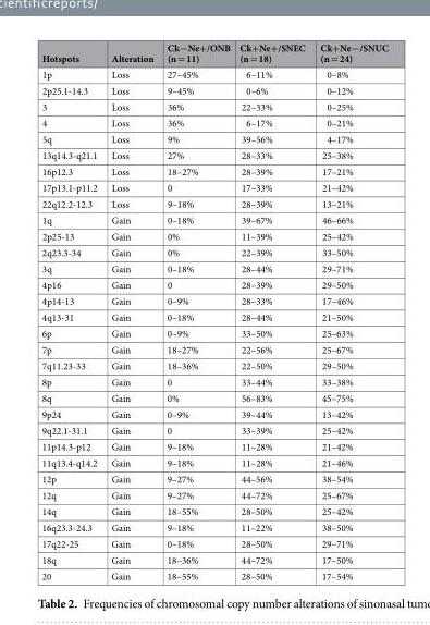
<table><thead><tr><td>Hotspots</td><td>Alteration</td><td>Ck−Ne+/ONB (n = 11)</td><td>Ck+Ne+/SNEC (n = 18)</td><td>Ck+Ne−/SNUC (n = 24)</td></tr></thead><tbody><tr><td>1p</td><td>Loss</td><td>27–45%</td><td>6–11%</td><td>0–8%</td></tr><tr><td>2p25.1-14.3</td><td>Loss</td><td>9–45%</td><td>0–6%</td><td>0–12%</td></tr><tr><td>3</td><td>Loss</td><td>36%</td><td>22–33%</td><td>0–25%</td></tr><tr><td>4</td><td>Loss</td><td>36%</td><td>6–17%</td><td>0–21%</td></tr><tr><td>5q</td><td>Loss</td><td>9%</td><td>39–56%</td><td>4–17%</td></tr><tr><td>13q14.3-q21.1</td><td>Loss</td><td>27%</td><td>28–33%</td><td>25–38%</td></tr><tr><td>16p12.3</td><td>Loss</td><td>18–27%</td><td>28–39%</td><td>17–21%</td></tr><tr><td>17p13.1-p11.2</td><td>Loss</td><td>0</td><td>17–33%</td><td>21–42%</td></tr><tr><td>22q12.2-12.3</td><td>Loss</td><td>9–18%</td><td>28–39%</td><td>13–21%</td></tr><tr><td>1q</td><td>Gain</td><td>0–18%</td><td>39–67%</td><td>46–66%</td></tr><tr><td>2p25-13</td><td>Gain</td><td>0%</td><td>11–39%</td><td>25–42%</td></tr><tr><td>2q23.3-34</td><td>Gain</td><td>0%</td><td>22–39%</td><td>33–50%</td></tr><tr><td>3q</td><td>Gain</td><td>0–18%</td><td>28–44%</td><td>29–71%</td></tr><tr><td>4p16</td><td>Gain</td><td>0</td><td>28–39%</td><td>29–50%</td></tr><tr><td>4p14-13</td><td>Gain</td><td>0–9%</td><td>28–33%</td><td>17–46%</td></tr><tr><td>4q13-31</td><td>Gain</td><td>0–18%</td><td>28–44%</td><td>21–50%</td></tr><tr><td>6p</td><td>Gain</td><td>0–9%</td><td>33–50%</td><td>25–63%</td></tr><tr><td>7p</td><td>Gain</td><td>18–27%</td><td>22–56%</td><td>25–67%</td></tr><tr><td>7q11.23-33</td><td>Gain</td><td>18–36%</td><td>22–50%</td><td>29–50%</td></tr><tr><td>8p</td><td>Gain</td><td>0</td><td>33–44%</td><td>33–38%</td></tr><tr><td>8q</td><td>Gain</td><td>0%</td><td>56–83%</td><td>45–75%</td></tr><tr><td>9p24</td><td>Gain</td><td>0–9%</td><td>39–44%</td><td>13–42%</td></tr><tr><td>9q22.1-31.1</td><td>Gain</td><td>0</td><td>33–39%</td><td>25–42%</td></tr><tr><td>11p14.3-p12</td><td>Gain</td><td>9–18%</td><td>11–28%</td><td>21–42%</td></tr><tr><td>11q13.4-q14.2</td><td>Gain</td><td>9–18%</td><td>11–28%</td><td>21–46%</td></tr><tr><td>12p</td><td>Gain</td><td>9–27%</td><td>44–56%</td><td>38–54%</td></tr><tr><td>12q</td><td>Gain</td><td>9–27%</td><td>44–72%</td><td>25–67%</td></tr><tr><td>14q</td><td>Gain</td><td>18–55%</td><td>28–50%</td><td>25–42%</td></tr><tr><td>16q23.3-24.3</td><td>Gain</td><td>9–18%</td><td>11–22%</td><td>38–50%</td></tr><tr><td>17q22-25</td><td>Gain</td><td>0–18%</td><td>28–50%</td><td>29–71%</td></tr><tr><td>18q</td><td>Gain</td><td>18–36%</td><td>44–72%</td><td>17–50%</td></tr><tr><td>20</td><td>Gain</td><td>18–55%</td><td>28–50%</td><td>17–54%</td></tr></tbody></table>